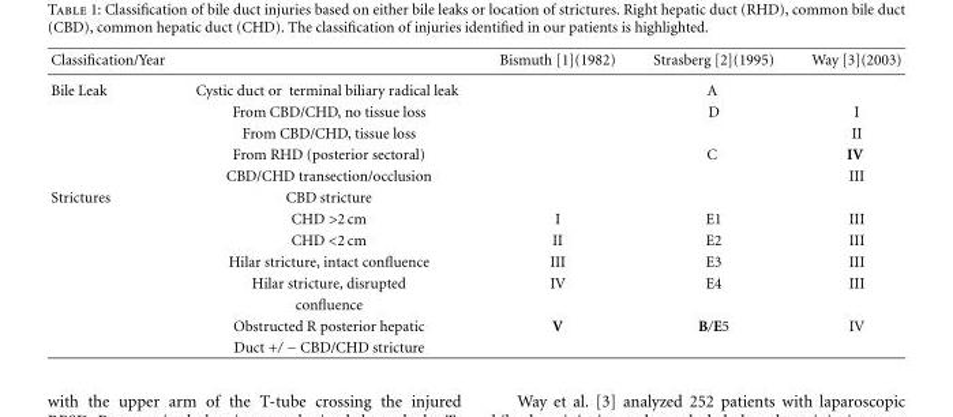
<table><thead><tr><td>Classification/Year</td><td></td><td>Bismuth [1](1982)</td><td>Strasberg [2](1995)</td><td>Way [3](2003)</td></tr></thead><tbody><tr><td rowspan="5">Bile Leak</td><td>Cystic duct or terminal biliary radical leak</td><td></td><td>A</td><td></td></tr><tr><td>From CBD/CHD, no tissue loss</td><td></td><td>D</td><td>I</td></tr><tr><td>From CBD/CHD, tissue loss</td><td></td><td></td><td>II</td></tr><tr><td>From RHD (posterior sectoral)</td><td></td><td>C</td><td>IV</td></tr><tr><td>CBD/CHD transection/occlusion</td><td></td><td></td><td>III</td></tr><tr><td rowspan="8">Strictures</td><td>CBD stricture</td><td></td><td></td><td></td></tr><tr><td>CHD &gt;2 cm</td><td>I</td><td>E1</td><td>III</td></tr><tr><td>CHD &lt;2 cm</td><td>II</td><td>E2</td><td>III</td></tr><tr><td>Hilar stricture, intact confluence</td><td>III</td><td>E3</td><td>III</td></tr><tr><td>Hilar stricture, disrupted</td><td>IV</td><td>E4</td><td>III</td></tr><tr><td>confluence</td><td></td><td></td><td></td></tr><tr><td>Obstructed R posterior hepatic</td><td>V</td><td>B/E5</td><td>IV</td></tr><tr><td>Duct +/ − CBD/CHD stricture</td><td></td><td></td><td></td></tr></tbody></table>